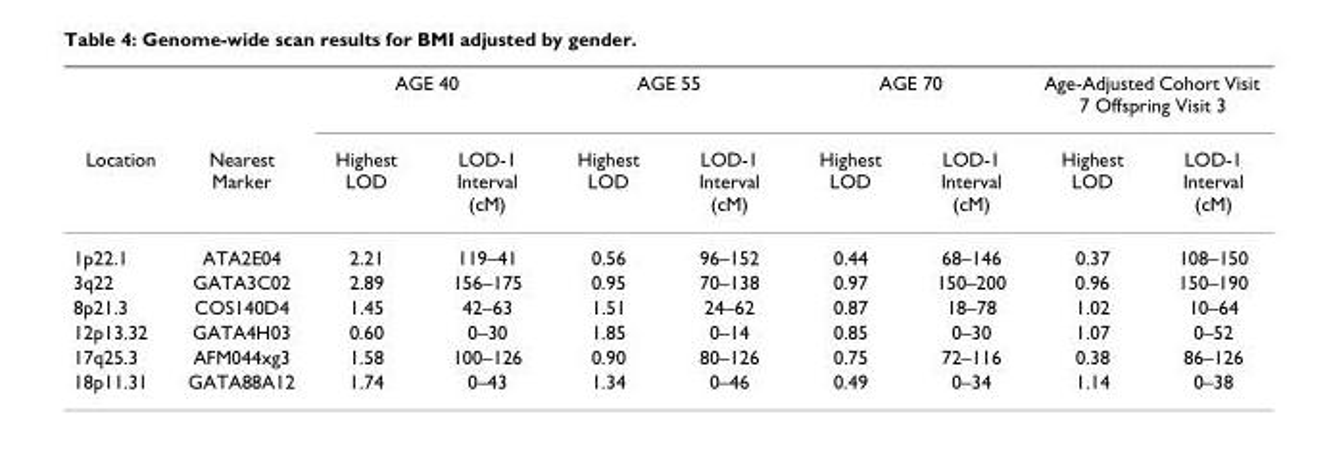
<table><thead><tr><td rowspan="2">Location</td><td rowspan="2">Nearest Marker</td><td colspan="2">AGE 40</td><td colspan="2">AGE 55</td><td colspan="2">AGE 70</td><td colspan="2">Age-Adjusted Cohort Visit 7 Offspring Visit 3</td></tr><tr><td>Highest LOD</td><td>LOD-1 Interval (cM)</td><td>Highest LOD</td><td>LOD-1 Interval (cM)</td><td>Highest LOD</td><td>LOD-1 Interval (cM)</td><td>Highest LOD</td><td>LOD-1 Interval (cM)</td></tr></thead><tbody><tr><td>1p22.1</td><td>ATA2E04</td><td>2.21</td><td>119–41</td><td>0.56</td><td>96–152</td><td>0.44</td><td>68–146</td><td>0.37</td><td>108–150</td></tr><tr><td>3q22</td><td>GATA3C02</td><td>2.89</td><td>156–175</td><td>0.95</td><td>70–138</td><td>0.97</td><td>150–200</td><td>0.96</td><td>150–190</td></tr><tr><td>8p21.3</td><td>COS140D4</td><td>1.45</td><td>42–63</td><td>1.51</td><td>24–62</td><td>0.87</td><td>18–78</td><td>1.02</td><td>10–64</td></tr><tr><td>12p13.32</td><td>GATA4H03</td><td>0.60</td><td>0–30</td><td>1.85</td><td>0–14</td><td>0.85</td><td>0–30</td><td>1.07</td><td>0–52</td></tr><tr><td>17q25.3</td><td>AFM044xg3</td><td>1.58</td><td>100–126</td><td>0.90</td><td>80–126</td><td>0.75</td><td>72–116</td><td>0.38</td><td>86–126</td></tr><tr><td>18p11.31</td><td>GATA88A12</td><td>1.74</td><td>0–43</td><td>1.34</td><td>0–46</td><td>0.49</td><td>0–34</td><td>1.14</td><td>0–38</td></tr></tbody></table>